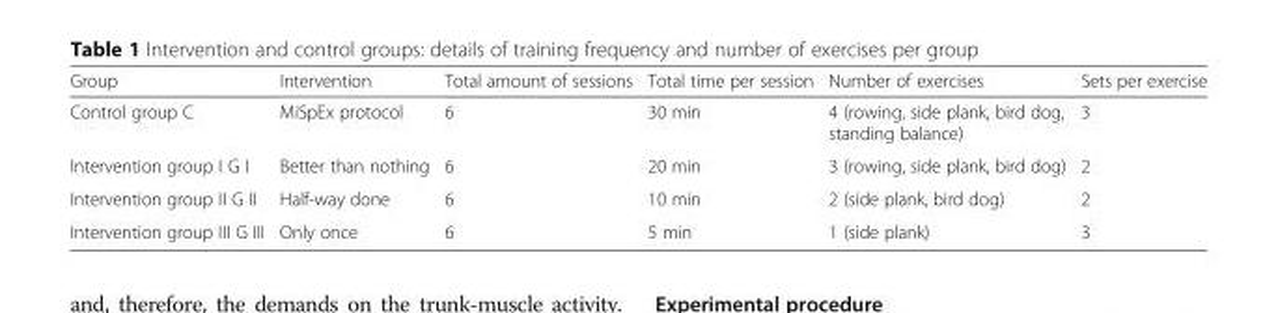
<table><thead><tr><td>Group</td><td>Intervention</td><td>Total amount of sessions</td><td>Total time per session</td><td>Number of exercises</td><td>Sets per exercise</td></tr></thead><tbody><tr><td>Control group C</td><td>MiSpEx protocol</td><td>6</td><td>30 min</td><td>4 (rowing, side plank, bird dog, standing balance)</td><td>3</td></tr><tr><td>Intervention group I G I</td><td>Better than nothing</td><td>6</td><td>20 min</td><td>3 (rowing, side plank, bird dog)</td><td>2</td></tr><tr><td>Intervention group II G II</td><td>Half-way done</td><td>6</td><td>10 min</td><td>2 (side plank, bird dog)</td><td>2</td></tr><tr><td>Intervention group III G III</td><td>Only once</td><td>6</td><td>5 min</td><td>1 (side plank)</td><td>3</td></tr></tbody></table>